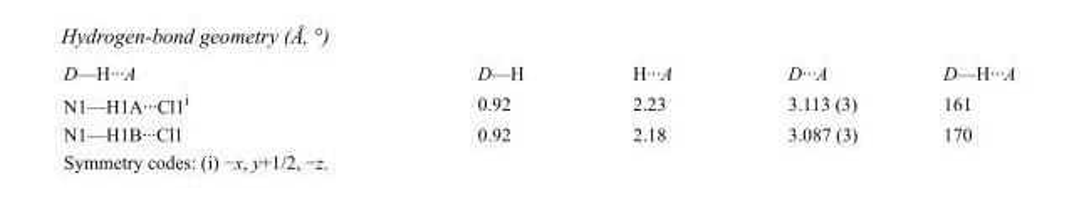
<table><tbody><tr><td>D—H···A</td><td>D—H</td><td>H···A</td><td>D···A</td><td>D—H···A</td></tr><tr><td>N1—H1A···Cl1<sup>i</sup></td><td>0.92</td><td>2.23</td><td>3.113 (3)</td><td>161</td></tr><tr><td>N1—H1B···Cl1</td><td>0.92</td><td>2.18</td><td>3.087 (3)</td><td>170</td></tr></tbody></table>